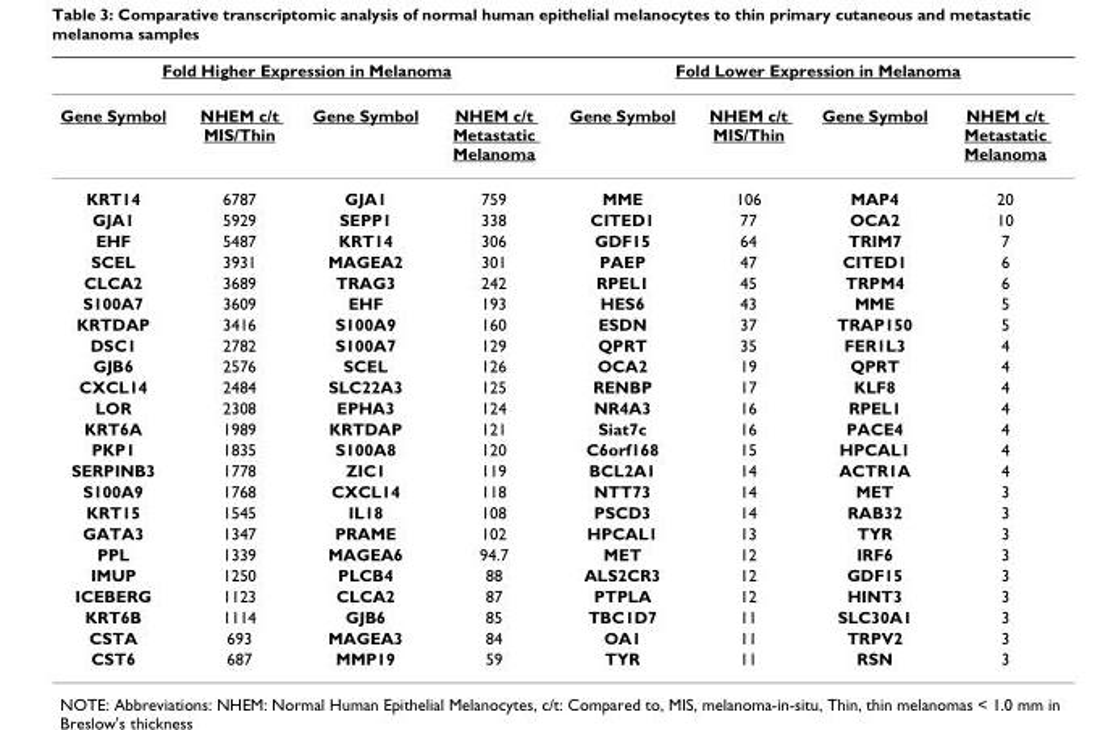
<table><thead><tr><td colspan="4">Fold Higher Expression in Melanoma</td><td colspan="4">Fold Lower Expression in Melanoma</td></tr><tr><td>Gene Symbol</td><td>NHEM c/t MIS/Thin</td><td>Gene Symbol</td><td>NHEM c/t Metastatic Melanoma</td><td>Gene Symbol</td><td>NHEM c/t MIS/Thin</td><td>Gene Symbol</td><td>NHEM c/t Metastatic Melanoma</td></tr></thead><tbody><tr><td>KRT14</td><td>6787</td><td>GJA1</td><td>759</td><td>MME</td><td>106</td><td>MAP4</td><td>20</td></tr><tr><td>GJA1</td><td>5929</td><td>SEPP1</td><td>338</td><td>CITED1</td><td>77</td><td>OCA2</td><td>10</td></tr><tr><td>EHF</td><td>5487</td><td>KRT14</td><td>306</td><td>GDF15</td><td>64</td><td>TRIM7</td><td>7</td></tr><tr><td>SCEL</td><td>3931</td><td>MAGEA2</td><td>301</td><td>PAEP</td><td>47</td><td>CITED1</td><td>6</td></tr><tr><td>CLCA2</td><td>3689</td><td>TRAG3</td><td>242</td><td>RPEL1</td><td>45</td><td>TRPM4</td><td>6</td></tr><tr><td>S100A7</td><td>3609</td><td>EHF</td><td>193</td><td>HES6</td><td>43</td><td>MME</td><td>5</td></tr><tr><td>KRTDAP</td><td>3416</td><td>S100A9</td><td>160</td><td>ESDN</td><td>37</td><td>TRAP150</td><td>5</td></tr><tr><td>DSC1</td><td>2782</td><td>S100A7</td><td>129</td><td>QPRT</td><td>35</td><td>FER1L3</td><td>4</td></tr><tr><td>GJB6</td><td>2576</td><td>SCEL</td><td>126</td><td>OCA2</td><td>19</td><td>QPRT</td><td>4</td></tr><tr><td>CXCL14</td><td>2484</td><td>SLC22A3</td><td>125</td><td>RENBP</td><td>17</td><td>KLF8</td><td>4</td></tr><tr><td>LOR</td><td>2308</td><td>EPHA3</td><td>124</td><td>NR4A3</td><td>16</td><td>RPEL1</td><td>4</td></tr><tr><td>KRT6A</td><td>1989</td><td>KRTDAP</td><td>121</td><td>Siat7c</td><td>16</td><td>PACE4</td><td>4</td></tr><tr><td>PKP1</td><td>1835</td><td>S100A8</td><td>120</td><td>C6orf168</td><td>15</td><td>HPCAL1</td><td>4</td></tr><tr><td>SERPINB3</td><td>1778</td><td>ZIC1</td><td>119</td><td>BCL2A1</td><td>14</td><td>ACTR1A</td><td>4</td></tr><tr><td>S100A9</td><td>1768</td><td>CXCL14</td><td>118</td><td>NTT73</td><td>14</td><td>MET</td><td>3</td></tr><tr><td>KRT15</td><td>1545</td><td>IL18</td><td>108</td><td>PSCD3</td><td>14</td><td>RAB32</td><td>3</td></tr><tr><td>GATA3</td><td>1347</td><td>PRAME</td><td>102</td><td>HPCAL1</td><td>13</td><td>TYR</td><td>3</td></tr><tr><td>PPL</td><td>1339</td><td>MAGEA6</td><td>94.7</td><td>MET</td><td>12</td><td>IRF6</td><td>3</td></tr><tr><td>IMUP</td><td>1250</td><td>PLCB4</td><td>88</td><td>ALS2CR3</td><td>12</td><td>GDF15</td><td>3</td></tr><tr><td>ICEBERG</td><td>1123</td><td>CLCA2</td><td>87</td><td>PTPLA</td><td>12</td><td>HINT3</td><td>3</td></tr><tr><td>KRT6B</td><td>1114</td><td>GJB6</td><td>85</td><td>TBC1D7</td><td>11</td><td>SLC30A1</td><td>3</td></tr><tr><td>CSTA</td><td>693</td><td>MAGEA3</td><td>84</td><td>OA1</td><td>11</td><td>TRPV2</td><td>3</td></tr><tr><td>CST6</td><td>687</td><td>MMP19</td><td>59</td><td>TYR</td><td>11</td><td>RSN</td><td>3</td></tr></tbody></table>